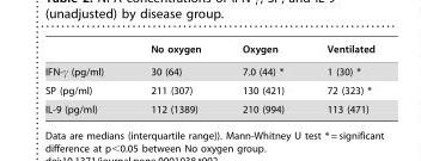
<table><thead><tr><td></td><td>No oxygen</td><td>Oxygen</td><td>Ventilated</td></tr></thead><tbody><tr><td>IFN-γ (pg/ml)</td><td>30 (64)</td><td>7.0 (44) *</td><td>1 (30) *</td></tr><tr><td>SP (pg/ml)</td><td>211 (307)</td><td>130 (421)</td><td>72 (323) *</td></tr><tr><td>IL-9 (pg/ml)</td><td>112 (1389)</td><td>210 (994)</td><td>113 (471)</td></tr></tbody></table>